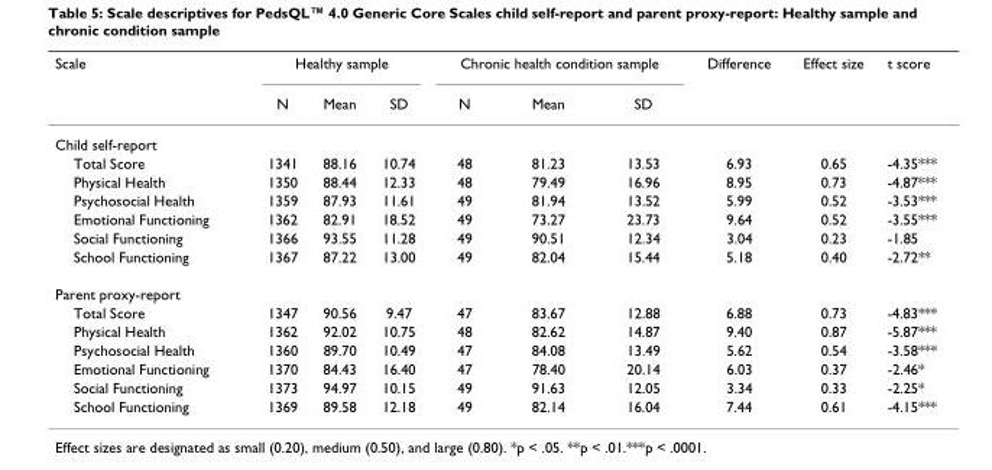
<table><thead><tr><td rowspan="2">Scale</td><td colspan="3">Healthy sample</td><td colspan="3">Chronic health condition sample</td><td rowspan="2">Difference</td><td rowspan="2">Effect size</td><td rowspan="2">t score</td></tr><tr><td>N</td><td>Mean</td><td>SD</td><td>N</td><td>Mean</td><td>SD</td></tr></thead><tbody><tr><td colspan="10">Child self-report</td></tr><tr><td>Total Score</td><td>1341</td><td>88.16</td><td>10.74</td><td>48</td><td>81.23</td><td>13.53</td><td>6.93</td><td>0.65</td><td>-4.35***</td></tr><tr><td>Physical Health</td><td>1350</td><td>88.44</td><td>12.33</td><td>48</td><td>79.49</td><td>16.96</td><td>8.95</td><td>0.73</td><td>-4.87***</td></tr><tr><td>Psychosocial Health</td><td>1359</td><td>87.93</td><td>11.61</td><td>49</td><td>81.94</td><td>13.52</td><td>5.99</td><td>0.52</td><td>-3.53***</td></tr><tr><td>Emotional Functioning</td><td>1362</td><td>82.91</td><td>18.52</td><td>49</td><td>73.27</td><td>23.73</td><td>9.64</td><td>0.52</td><td>-3.55***</td></tr><tr><td>Social Functioning</td><td>1366</td><td>93.55</td><td>11.28</td><td>49</td><td>90.51</td><td>12.34</td><td>3.04</td><td>0.23</td><td>-1.85</td></tr><tr><td>School Functioning</td><td>1367</td><td>87.22</td><td>13.00</td><td>49</td><td>82.04</td><td>15.44</td><td>5.18</td><td>0.40</td><td>-2.72**</td></tr><tr><td colspan="10">Parent proxy-report</td></tr><tr><td>Total Score</td><td>1347</td><td>90.56</td><td>9.47</td><td>47</td><td>83.67</td><td>12.88</td><td>6.88</td><td>0.73</td><td>-4.83***</td></tr><tr><td>Physical Health</td><td>1362</td><td>92.02</td><td>10.75</td><td>48</td><td>82.62</td><td>14.87</td><td>9.40</td><td>0.87</td><td>-5.87***</td></tr><tr><td>Psychosocial Health</td><td>1360</td><td>89.70</td><td>10.49</td><td>47</td><td>84.08</td><td>13.49</td><td>5.62</td><td>0.54</td><td>-3.58***</td></tr><tr><td>Emotional Functioning</td><td>1370</td><td>84.43</td><td>16.40</td><td>47</td><td>78.40</td><td>20.14</td><td>6.03</td><td>0.37</td><td>-2.46*</td></tr><tr><td>Social Functioning</td><td>1373</td><td>94.97</td><td>10.15</td><td>49</td><td>91.63</td><td>12.05</td><td>3.34</td><td>0.33</td><td>-2.25*</td></tr><tr><td>School Functioning</td><td>1369</td><td>89.58</td><td>12.18</td><td>49</td><td>82.14</td><td>16.04</td><td>7.44</td><td>0.61</td><td>-4.15***</td></tr></tbody></table>